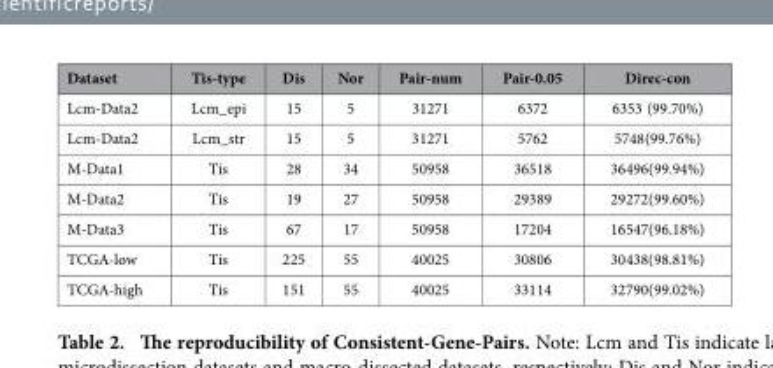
<table><thead><tr><td>Dataset</td><td>Tis-type</td><td>Dis</td><td>Nor</td><td>Pair-num</td><td>Pair-0.05</td><td>Direc-con</td></tr></thead><tbody><tr><td>Lcm-Data2</td><td>Lcm_epi</td><td>15</td><td>5</td><td>31271</td><td>6372</td><td>6353 (99.70%)</td></tr><tr><td>Lcm-Data2</td><td>Lcm_str</td><td>15</td><td>5</td><td>31271</td><td>5762</td><td>5748(99.76%)</td></tr><tr><td>M-Data1</td><td>Tis</td><td>28</td><td>34</td><td>50958</td><td>36518</td><td>36496(99.94%)</td></tr><tr><td>M-Data2</td><td>Tis</td><td>19</td><td>27</td><td>50958</td><td>29389</td><td>29272(99.60%)</td></tr><tr><td>M-Data3</td><td>Tis</td><td>67</td><td>17</td><td>50958</td><td>17204</td><td>16547(96.18%)</td></tr><tr><td>TCGA-low</td><td>Tis</td><td>225</td><td>55</td><td>40025</td><td>30806</td><td>30438(98.81%)</td></tr><tr><td>TCGA-high</td><td>Tis</td><td>151</td><td>55</td><td>40025</td><td>33114</td><td>32790(99.02%)</td></tr></tbody></table>